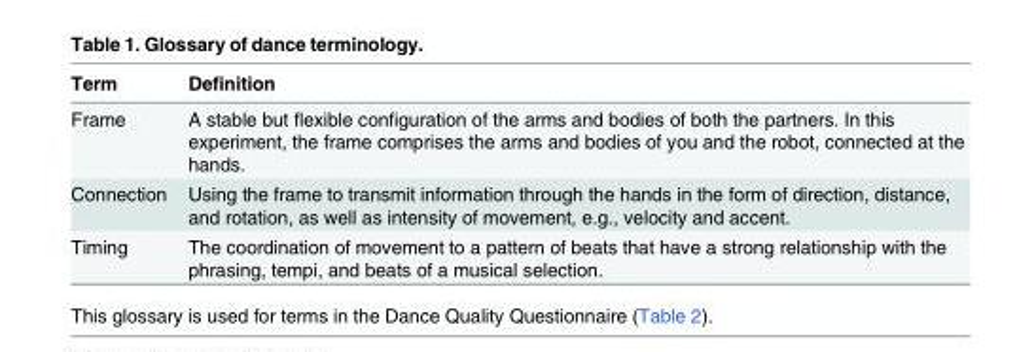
<table><thead><tr><td>Term</td><td>Definition</td></tr></thead><tbody><tr><td>Frame</td><td>A stable but flexible configuration of the arms and bodies of both the partners. In this experiment, the frame comprises the arms and bodies of you and the robot, connected at the hands.</td></tr><tr><td>Connection</td><td>Using the frame to transmit information through the hands in the form of direction, distance, and rotation, as well as intensity of movement, e.g., velocity and accent.</td></tr><tr><td>Timing</td><td>The coordination of movement to a pattern of beats that have a strong relationship with the phrasing, tempi, and beats of a musical selection.</td></tr></tbody></table>